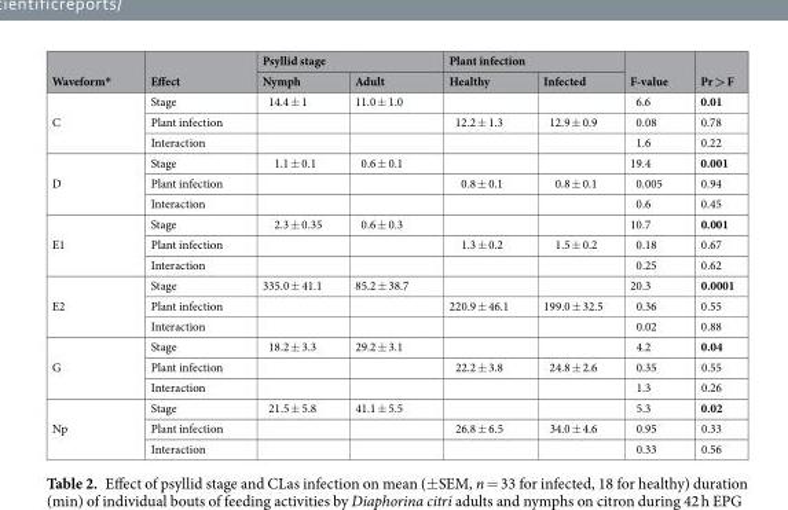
<table><thead><tr><td rowspan="2">Waveform*</td><td rowspan="2">Effect</td><td colspan="2">Psyllid stage</td><td colspan="2">Plant infection</td><td rowspan="2">F-value</td><td rowspan="2">Pr &gt; F</td></tr><tr><td>Nymph</td><td>Adult</td><td>Healthy</td><td>Infected</td></tr></thead><tbody><tr><td rowspan="3">C</td><td>Stage</td><td>14.4 ± 1</td><td>11.0 ± 1.0</td><td></td><td></td><td>6.6</td><td>0.01</td></tr><tr><td>Plant infection</td><td></td><td></td><td>12.2 ± 1.3</td><td>12.9 ± 0.9</td><td>0.08</td><td>0.78</td></tr><tr><td>Interaction</td><td></td><td></td><td></td><td></td><td>1.6</td><td>0.22</td></tr><tr><td rowspan="3">D</td><td>Stage</td><td>1.1 ± 0.1</td><td>0.6 ± 0.1</td><td></td><td></td><td>19.4</td><td>0.001</td></tr><tr><td>Plant infection</td><td></td><td></td><td>0.8 ± 0.1</td><td>0.8 ± 0.1</td><td>0.005</td><td>0.94</td></tr><tr><td>Interaction</td><td></td><td></td><td></td><td></td><td>0.6</td><td>0.45</td></tr><tr><td rowspan="3">E1</td><td>Stage</td><td>2.3 ± 0.35</td><td>0.6 ± 0.3</td><td></td><td></td><td>10.7</td><td>0.001</td></tr><tr><td>Plant infection</td><td></td><td></td><td>1.3 ± 0.2</td><td>1.5 ± 0.2</td><td>0.18</td><td>0.67</td></tr><tr><td>Interaction</td><td></td><td></td><td></td><td></td><td>0.25</td><td>0.62</td></tr><tr><td rowspan="3">E2</td><td>Stage</td><td>335.0 ± 41.1</td><td>85.2 ± 38.7</td><td></td><td></td><td>20.3</td><td>0.0001</td></tr><tr><td>Plant infection</td><td></td><td></td><td>220.9 ± 46.1</td><td>199.0 ± 32.5</td><td>0.36</td><td>0.55</td></tr><tr><td>Interaction</td><td></td><td></td><td></td><td></td><td>0.02</td><td>0.88</td></tr><tr><td rowspan="3">G</td><td>Stage</td><td>18.2 ± 3.3</td><td>29.2 ± 3.1</td><td></td><td></td><td>4.2</td><td>0.04</td></tr><tr><td>Plant infection</td><td></td><td></td><td>22.2 ± 3.8</td><td>24.8 ± 2.6</td><td>0.35</td><td>0.55</td></tr><tr><td>Interaction</td><td></td><td></td><td></td><td></td><td>1.3</td><td>0.26</td></tr><tr><td rowspan="3">Np</td><td>Stage</td><td>21.5 ± 5.8</td><td>41.1 ± 5.5</td><td></td><td></td><td>5.3</td><td>0.02</td></tr><tr><td>Plant infection</td><td></td><td></td><td>26.8 ± 6.5</td><td>34.0 ± 4.6</td><td>0.95</td><td>0.33</td></tr><tr><td>Interaction</td><td></td><td></td><td></td><td></td><td>0.33</td><td>0.56</td></tr></tbody></table>